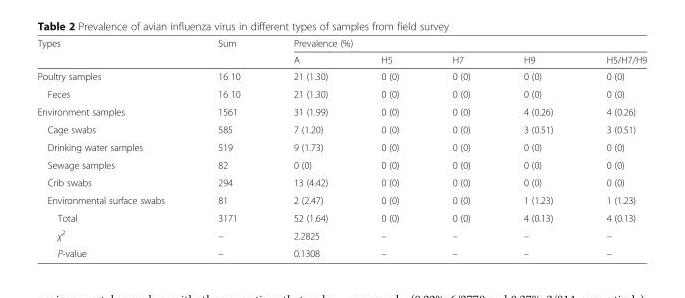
<table><thead><tr><td rowspan="2">Types</td><td rowspan="2">Sum</td><td colspan="5">Prevalence (%)</td></tr><tr><td>A</td><td>H5</td><td>H7</td><td>H9</td><td>H5/H7/H9</td></tr></thead><tbody><tr><td>Poultry samples</td><td>16 10</td><td>21 (1.30)</td><td>0 (0)</td><td>0 (0)</td><td>0 (0)</td><td>0 (0)</td></tr><tr><td>Feces</td><td>16 10</td><td>21 (1.30)</td><td>0 (0)</td><td>0 (0)</td><td>0 (0)</td><td>0 (0)</td></tr><tr><td>Environment samples</td><td>1561</td><td>31 (1.99)</td><td>0 (0)</td><td>0 (0)</td><td>4 (0.26)</td><td>4 (0.26)</td></tr><tr><td>Cage swabs</td><td>585</td><td>7 (1.20)</td><td>0 (0)</td><td>0 (0)</td><td>3 (0.51)</td><td>3 (0.51)</td></tr><tr><td>Drinking water samples</td><td>519</td><td>9 (1.73)</td><td>0 (0)</td><td>0 (0)</td><td>0 (0)</td><td>0 (0)</td></tr><tr><td>Sewage samples</td><td>82</td><td>0 (0)</td><td>0 (0)</td><td>0 (0)</td><td>0 (0)</td><td>0 (0)</td></tr><tr><td>Crib swabs</td><td>294</td><td>13 (4.42)</td><td>0 (0)</td><td>0 (0)</td><td>0 (0)</td><td>0 (0)</td></tr><tr><td>Environmental surface swabs</td><td>81</td><td>2 (2.47)</td><td>0 (0)</td><td>0 (0)</td><td>1 (1.23)</td><td>1 (1.23)</td></tr><tr><td>Total</td><td>3171</td><td>52 (1.64)</td><td>0 (0)</td><td>0 (0)</td><td>4 (0.13)</td><td>4 (0.13)</td></tr><tr><td>χ<sup>2</sup></td><td>–</td><td>2.2825</td><td>–</td><td>–</td><td>–</td><td>–</td></tr><tr><td>P-value</td><td>–</td><td>0.1308</td><td>–</td><td>–</td><td>–</td><td>–</td></tr></tbody></table>